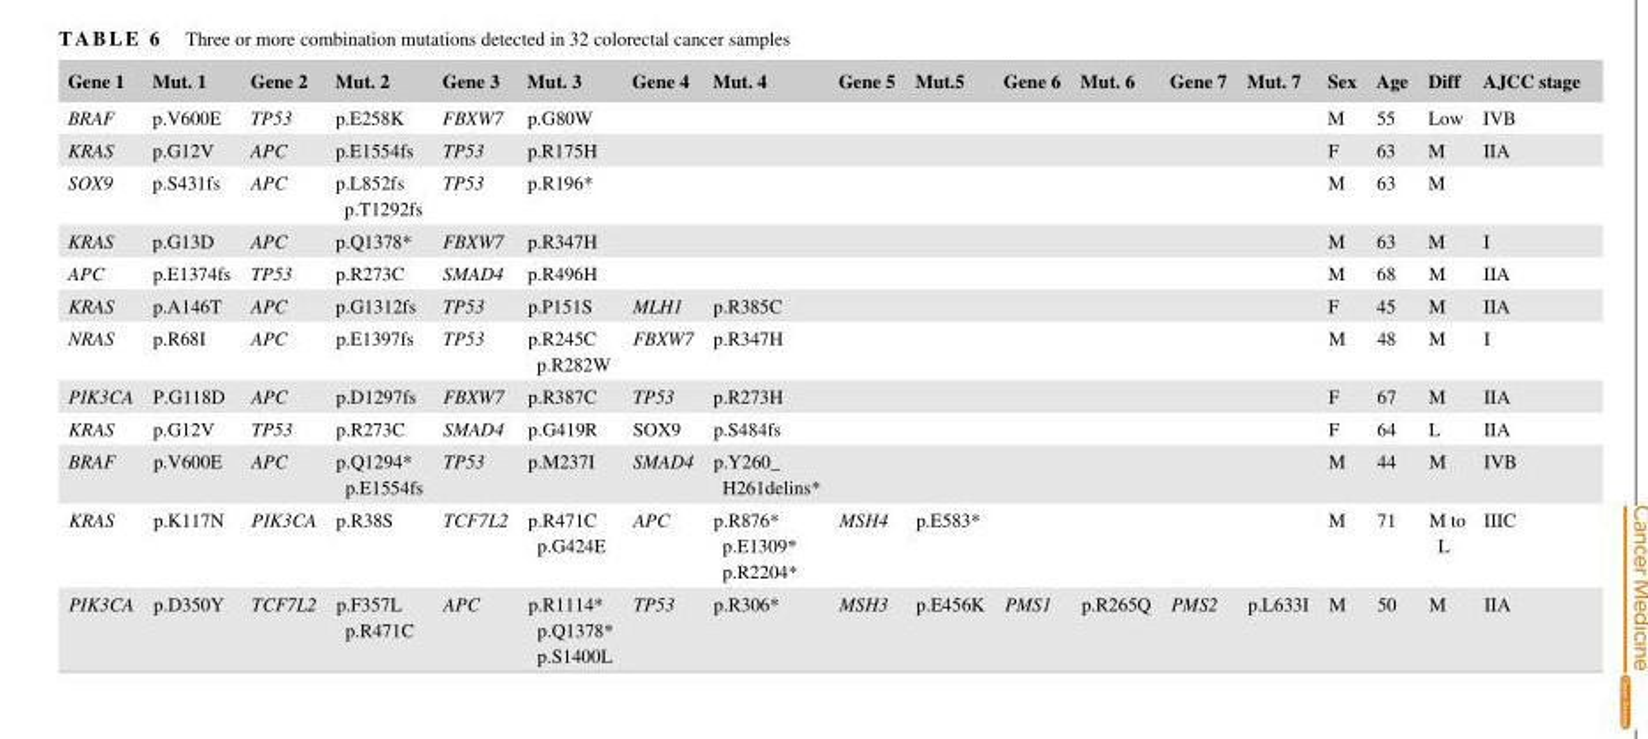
<table><thead><tr><td>Gene 1</td><td>Mut. 1</td><td>Gene 2</td><td>Mut. 2</td><td>Gene 3</td><td>Mut. 3</td><td>Gene 4</td><td>Mut. 4</td><td>Gene 5</td><td>Mut.5</td><td>Gene 6</td><td>Mut. 6</td><td>Gene 7</td><td>Mut. 7</td><td>Sex</td><td>Age</td><td>Diff</td><td>AJCC stage</td></tr></thead><tbody><tr><td>BRAF</td><td>p.V600E</td><td>TP53</td><td>p.E258K</td><td>FBXW7</td><td>p.G80W</td><td></td><td></td><td></td><td></td><td></td><td></td><td></td><td></td><td>M</td><td>55</td><td>Low</td><td>IVB</td></tr><tr><td>KRAS</td><td>p.G12V</td><td>APC</td><td>p.E1554fs</td><td>TP53</td><td>p.R175H</td><td></td><td></td><td></td><td></td><td></td><td></td><td></td><td></td><td>F</td><td>63</td><td>M</td><td>IIA</td></tr><tr><td>SOX9</td><td>p.S431fs</td><td>APC</td><td>p.L852fs p.T1292fs</td><td>TP53</td><td>p.R196*</td><td></td><td></td><td></td><td></td><td></td><td></td><td></td><td></td><td>M</td><td>63</td><td>M</td><td></td></tr><tr><td>KRAS</td><td>p.G13D</td><td>APC</td><td>p.Q1378*</td><td>FBXW7</td><td>p.R347H</td><td></td><td></td><td></td><td></td><td></td><td></td><td></td><td></td><td>M</td><td>63</td><td>M</td><td>I</td></tr><tr><td>APC</td><td>p.E1374fs</td><td>TP53</td><td>p.R273C</td><td>SMAD4</td><td>p.R496H</td><td></td><td></td><td></td><td></td><td></td><td></td><td></td><td></td><td>M</td><td>68</td><td>M</td><td>IIA</td></tr><tr><td>KRAS</td><td>p.A146T</td><td>APC</td><td>p.G1312fs</td><td>TP53</td><td>p.P151S</td><td>MLH1</td><td>p.R385C</td><td></td><td></td><td></td><td></td><td></td><td></td><td>F</td><td>45</td><td>M</td><td>IIA</td></tr><tr><td>NRAS</td><td>p.R68I</td><td>APC</td><td>p.E1397fs</td><td>TP53</td><td>p.R245C p.R282W</td><td>FBXW7</td><td>p.R347H</td><td></td><td></td><td></td><td></td><td></td><td></td><td>M</td><td>48</td><td>M</td><td>I</td></tr><tr><td>PIK3CA</td><td>P.G118D</td><td>APC</td><td>p.D1297fs</td><td>FBXW7</td><td>p.R387C</td><td>TP53</td><td>p.R273H</td><td></td><td></td><td></td><td></td><td></td><td></td><td>F</td><td>67</td><td>M</td><td>IIA</td></tr><tr><td>KRAS</td><td>p.G12V</td><td>TP53</td><td>p.R273C</td><td>SMAD4</td><td>p.G419R</td><td>SOX9</td><td>p.S484fs</td><td></td><td></td><td></td><td></td><td></td><td></td><td>F</td><td>64</td><td>L</td><td>IIA</td></tr><tr><td>BRAF</td><td>p.V600E</td><td>APC</td><td>p.Q1294* p.E1554fs</td><td>TP53</td><td>p.M237I</td><td>SMAD4</td><td>p.Y260_ H261delins*</td><td></td><td></td><td></td><td></td><td></td><td></td><td>M</td><td>44</td><td>M</td><td>IVB</td></tr><tr><td>KRAS</td><td>p.K117N</td><td>PIK3CA</td><td>p.R38S</td><td>TCF7L2</td><td>p.R471C p.G424E</td><td>APC</td><td>p.R876* p.E1309* p.R2204*</td><td>MSH4</td><td>p.E583*</td><td></td><td></td><td></td><td></td><td>M</td><td>71</td><td>M to L</td><td>IIIC</td></tr><tr><td>PIK3CA</td><td>p.D350Y</td><td>TCF7L2</td><td>p.F357L p.R471C</td><td>APC</td><td>p.R1114* p.Q1378* p.S1400L</td><td>TP53</td><td>p.R306*</td><td>MSH3</td><td>p.E456K</td><td>PMS1</td><td>p.R265Q</td><td>PMS2</td><td>p.L633I</td><td>M</td><td>50</td><td>M</td><td>IIA</td></tr></tbody></table>